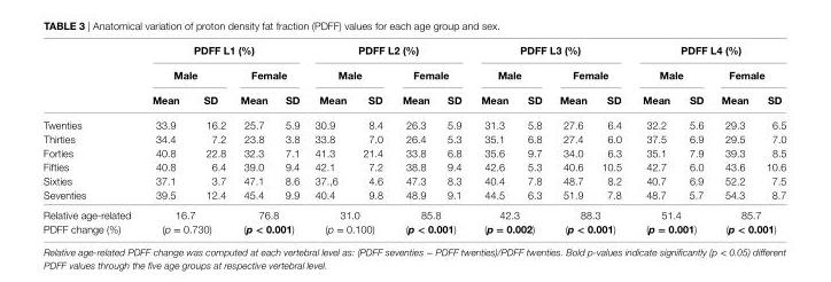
<table><thead><tr><td rowspan="3"></td><td colspan="4">PDFF l1 (%)</td><td colspan="4">PDFF l2 (%)</td><td colspan="4">PDFF l3 (%)</td><td colspan="4">PDFF l4 (%)</td></tr><tr><td colspan="2">Male</td><td colspan="2">Female</td><td colspan="2">Male</td><td colspan="2">Female</td><td colspan="2">Male</td><td colspan="2">Female</td><td colspan="2">Male</td><td colspan="2">Female</td></tr><tr><td>Mean</td><td>sD</td><td>Mean</td><td>sD</td><td>Mean</td><td>sD</td><td>Mean</td><td>sD</td><td>Mean</td><td>sD</td><td>Mean</td><td>sD</td><td>Mean</td><td>sD</td><td>Mean</td><td>sD</td></tr></thead><tbody><tr><td>Twenties</td><td>33.9</td><td>16.2</td><td>25.7</td><td>5.9</td><td>30.9</td><td>8.4</td><td>26.3</td><td>5.9</td><td>31.3</td><td>5.8</td><td>27.6</td><td>6.4</td><td>32.2</td><td>5.6</td><td>29.3</td><td>6.5</td></tr><tr><td>Thirties</td><td>34.4</td><td>7.2</td><td>23.8</td><td>3.8</td><td>33.8</td><td>7.0</td><td>26.4</td><td>5.3</td><td>35.1</td><td>6.8</td><td>27.4</td><td>6.0</td><td>37.5</td><td>6.9</td><td>29.5</td><td>7.0</td></tr><tr><td>Forties</td><td>40.8</td><td>22.8</td><td>32.3</td><td>7.1</td><td>41.3</td><td>21.4</td><td>33.8</td><td>6.8</td><td>35.6</td><td>9.7</td><td>34.0</td><td>6.3</td><td>35.1</td><td>7.9</td><td>39.3</td><td>8.5</td></tr><tr><td>Fifties</td><td>40.8</td><td>6.4</td><td>39.0</td><td>9.4</td><td>42.1</td><td>7.2</td><td>38.8</td><td>9.4</td><td>42.6</td><td>5.3</td><td>40.6</td><td>10.5</td><td>42.7</td><td>6.0</td><td>43.6</td><td>10.6</td></tr><tr><td>Sixties</td><td>37.1</td><td>3.7</td><td>47.1</td><td>8.6</td><td>37.,6</td><td>4.6</td><td>47.3</td><td>8.3</td><td>40.4</td><td>7.8</td><td>48.7</td><td>8.2</td><td>40.7</td><td>6.9</td><td>52.2</td><td>7.5</td></tr><tr><td>Seventies</td><td>39.5</td><td>12.4</td><td>45.4</td><td>9.9</td><td>40.4</td><td>9.8</td><td>48.9</td><td>9.1</td><td>44.5</td><td>6.3</td><td>51.9</td><td>7.8</td><td>48.7</td><td>5.7</td><td>54.3</td><td>8.7</td></tr><tr><td>Relative age-related PDFF change (%)</td><td colspan="2">16.7 (p = 0.730)</td><td colspan="2">76.8 (p &lt; 0.001)</td><td colspan="2">31.0 (p = 0.100)</td><td colspan="2">85.8 (p &lt; 0.001)</td><td colspan="2">42.3 (p = 0.002)</td><td colspan="2">88.3 (p &lt; 0.001)</td><td colspan="2">51.4 (p = 0.001)</td><td colspan="2">85.7 (p &lt; 0.001)</td></tr></tbody></table>